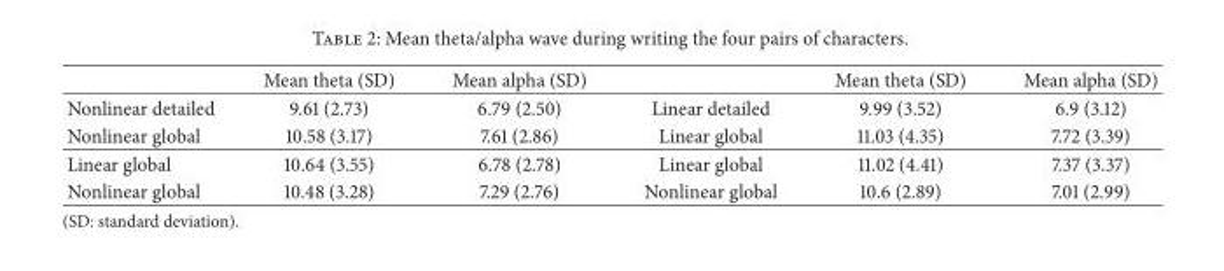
<table><thead><tr><td></td><td>Mean theta (SD)</td><td>Mean alpha (SD)</td><td></td><td>Mean theta (SD)</td><td>Mean alpha (SD)</td></tr></thead><tbody><tr><td>Nonlinear detailed</td><td>9.61 (2.73)</td><td>6.79 (2.50)</td><td>Linear detailed</td><td>9.99 (3.52)</td><td>6.9 (3.12)</td></tr><tr><td>Nonlinear global</td><td>10.58 (3.17)</td><td>7.61 (2.86)</td><td>Linear global</td><td>11.03 (4.35)</td><td>7.72 (3.39)</td></tr><tr><td>Linear global</td><td>10.64 (3.55)</td><td>6.78 (2.78)</td><td>Linear global</td><td>11.02 (4.41)</td><td>7.37 (3.37)</td></tr><tr><td>Nonlinear global</td><td>10.48 (3.28)</td><td>7.29 (2.76)</td><td>Nonlinear global</td><td>10.6 (2.89)</td><td>7.01 (2.99)</td></tr></tbody></table>